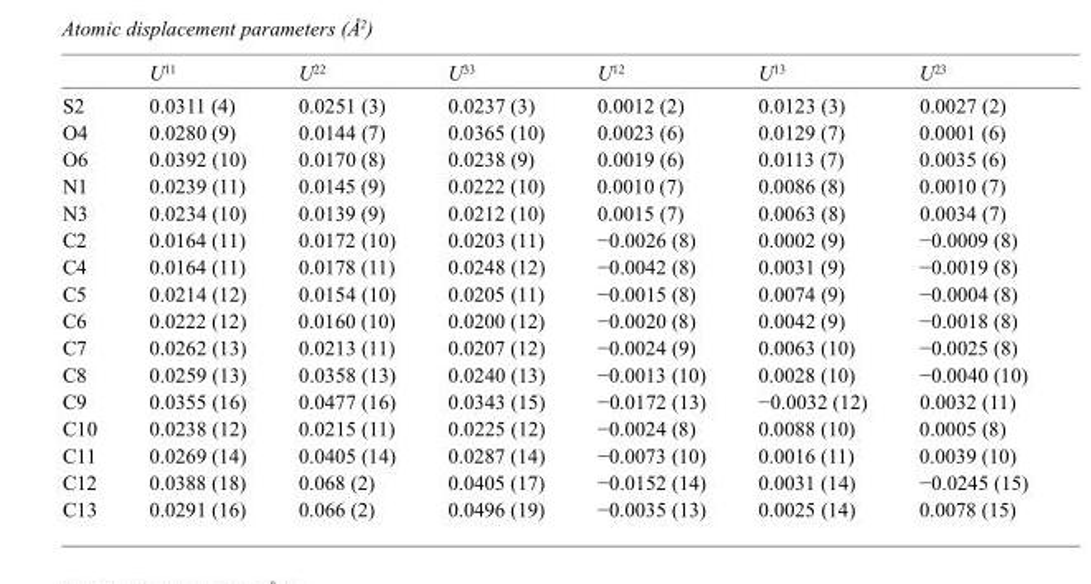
<table><thead><tr><td></td><td>U<sup>11</sup></td><td>U<sup>22</sup></td><td>U<sup>33</sup></td><td>U<sup>12</sup></td><td>U<sup>13</sup></td><td>U<sup>23</sup></td></tr></thead><tbody><tr><td>S2</td><td>0.0311 (4)</td><td>0.0251 (3)</td><td>0.0237 (3)</td><td>0.0012 (2)</td><td>0.0123 (3)</td><td>0.0027 (2)</td></tr><tr><td>O4</td><td>0.0280 (9)</td><td>0.0144 (7)</td><td>0.0365 (10)</td><td>0.0023 (6)</td><td>0.0129 (7)</td><td>0.0001 (6)</td></tr><tr><td>O6</td><td>0.0392 (10)</td><td>0.0170 (8)</td><td>0.0238 (9)</td><td>0.0019 (6)</td><td>0.0113 (7)</td><td>0.0035 (6)</td></tr><tr><td>N1</td><td>0.0239 (11)</td><td>0.0145 (9)</td><td>0.0222 (10)</td><td>0.0010 (7)</td><td>0.0086 (8)</td><td>0.0010 (7)</td></tr><tr><td>N3</td><td>0.0234 (10)</td><td>0.0139 (9)</td><td>0.0212 (10)</td><td>0.0015 (7)</td><td>0.0063 (8)</td><td>0.0034 (7)</td></tr><tr><td>C2</td><td>0.0164 (11)</td><td>0.0172 (10)</td><td>0.0203 (11)</td><td>−0.0026 (8)</td><td>0.0002 (9)</td><td>−0.0009 (8)</td></tr><tr><td>C4</td><td>0.0164 (11)</td><td>0.0178 (11)</td><td>0.0248 (12)</td><td>−0.0042 (8)</td><td>0.0031 (9)</td><td>−0.0019 (8)</td></tr><tr><td>C5</td><td>0.0214 (12)</td><td>0.0154 (10)</td><td>0.0205 (11)</td><td>−0.0015 (8)</td><td>0.0074 (9)</td><td>−0.0004 (8)</td></tr><tr><td>C6</td><td>0.0222 (12)</td><td>0.0160 (10)</td><td>0.0200 (12)</td><td>−0.0020 (8)</td><td>0.0042 (9)</td><td>−0.0018 (8)</td></tr><tr><td>C7</td><td>0.0262 (13)</td><td>0.0213 (11)</td><td>0.0207 (12)</td><td>−0.0024 (9)</td><td>0.0063 (10)</td><td>−0.0025 (8)</td></tr><tr><td>C8</td><td>0.0259 (13)</td><td>0.0358 (13)</td><td>0.0240 (13)</td><td>−0.0013 (10)</td><td>0.0028 (10)</td><td>−0.0040 (10)</td></tr><tr><td>C9</td><td>0.0355 (16)</td><td>0.0477 (16)</td><td>0.0343 (15)</td><td>−0.0172 (13)</td><td>−0.0032 (12)</td><td>0.0032 (11)</td></tr><tr><td>C10</td><td>0.0238 (12)</td><td>0.0215 (11)</td><td>0.0225 (12)</td><td>−0.0024 (8)</td><td>0.0088 (10)</td><td>0.0005 (8)</td></tr><tr><td>C11</td><td>0.0269 (14)</td><td>0.0405 (14)</td><td>0.0287 (14)</td><td>−0.0073 (10)</td><td>0.0016 (11)</td><td>0.0039 (10)</td></tr><tr><td>C12</td><td>0.0388 (18)</td><td>0.068 (2)</td><td>0.0405 (17)</td><td>−0.0152 (14)</td><td>0.0031 (14)</td><td>−0.0245 (15)</td></tr><tr><td>C13</td><td>0.0291 (16)</td><td>0.066 (2)</td><td>0.0496 (19)</td><td>−0.0035 (13)</td><td>0.0025 (14)</td><td>0.0078 (15)</td></tr></tbody></table>